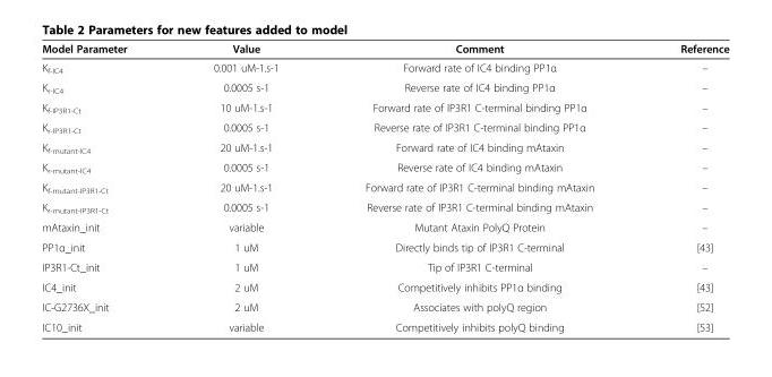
<table><thead><tr><td>Model Parameter</td><td>Value</td><td>Comment</td><td>Reference</td></tr></thead><tbody><tr><td>K<sub>f-IC4</sub></td><td>0.001 uM-1.s-1</td><td>Forward rate of IC4 binding PP1α</td><td>–</td></tr><tr><td>K<sub>r-IC4</sub></td><td>0.0005 s-1</td><td>Reverse rate of IC4 binding PP1α</td><td>–</td></tr><tr><td>K<sub>f-IP3R1-Ct</sub></td><td>10 uM-1.s-1</td><td>Forward rate of IP3R1 C-terminal binding PP1α</td><td>–</td></tr><tr><td>K<sub>r-IP3R1-Ct</sub></td><td>0.0005 s-1</td><td>Reverse rate of IP3R1 C-terminal binding PP1α</td><td>–</td></tr><tr><td>K<sub>f-mutant-IC4</sub></td><td>20 uM-1.s-1</td><td>Forward rate of IC4 binding mAtaxin</td><td>–</td></tr><tr><td>K<sub>r-mutant-IC4</sub></td><td>0.0005 s-1</td><td>Reverse rate of IC4 binding mAtaxin</td><td>–</td></tr><tr><td>K<sub>f-mutant-IP3R1-Ct</sub></td><td>20 uM-1.s-1</td><td>Forward rate of IP3R1 C-terminal binding mAtaxin</td><td>–</td></tr><tr><td>K<sub>r-mutant-IP3R1-Ct</sub></td><td>0.0005 s-1</td><td>Reverse rate of IP3R1 C-terminal binding mAtaxin</td><td>–</td></tr><tr><td>mAtaxin_init</td><td>variable</td><td>Mutant Ataxin PolyQ Protein</td><td>–</td></tr><tr><td>PP1α_init</td><td>1 uM</td><td>Directly binds tip of IP3R1 C-terminal</td><td>[43]</td></tr><tr><td>IP3R1-Ct_init</td><td>1 uM</td><td>Tip of IP3R1 C-terminal</td><td>–</td></tr><tr><td>IC4_init</td><td>2 uM</td><td>Competitively inhibits PP1α binding</td><td>[43]</td></tr><tr><td>IC-G2736X_init</td><td>2 uM</td><td>Associates with polyQ region</td><td>[52]</td></tr><tr><td>IC10_init</td><td>variable</td><td>Competitively inhibits polyQ binding</td><td>[53]</td></tr></tbody></table>